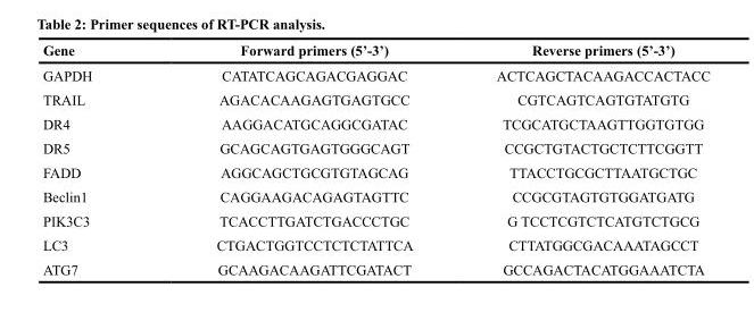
<table><thead><tr><td>Gene</td><td>Forward primers (5’-3’)</td><td>Reverse primers (5’-3’)</td></tr></thead><tbody><tr><td>GAPDH</td><td>CATATCAGCAGACGAGGAC</td><td>ACTCAGCTACAAGACCACTACC</td></tr><tr><td>TRAIL</td><td>AGACACAAGAGTGAGTGCC</td><td>CGTCAGTCAGTGTATGTG</td></tr><tr><td>DR4</td><td>AAGGACATGCAGGCGATAC</td><td>TCGCATGCTAAGTTGGTGTGG</td></tr><tr><td>DR5</td><td>GCAGCAGTGAGTGGGCAGT</td><td>CCGCTGTACTGCTCTTCGGTT</td></tr><tr><td>FADD</td><td>AGGCAGCTGCGTGTAGCAG</td><td>TTACCTGCGCTTAATGCTGC</td></tr><tr><td>Beclin1</td><td>CAGGAAGACAGAGTAGTTC</td><td>CCGCGTAGTGTGGATGATG</td></tr><tr><td>PIK3C3</td><td>TCACCTTGATCTGACCCTGC</td><td>G TCCTCGTCTCATGTCTGCG</td></tr><tr><td>LC3</td><td>CTGACTGGTCCTCTCTATTCA</td><td>CTTATGGCGACAAATAGCCT</td></tr><tr><td>ATG7</td><td>GCAAGACAAGATTCGATACT</td><td>GCCAGACTACATGGAAATCTA</td></tr></tbody></table>